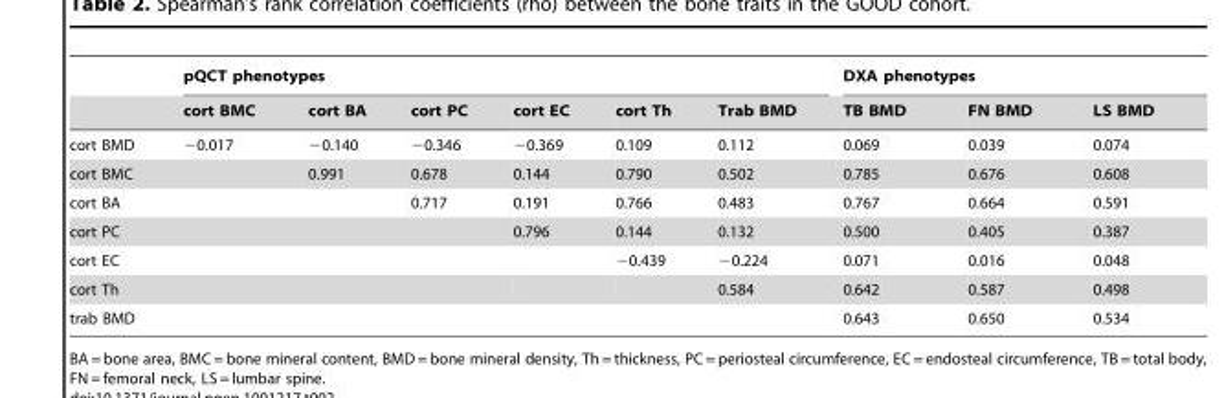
<table><thead><tr><td rowspan="2"></td><td colspan="6">pQCT phenotypes</td><td colspan="3">DXA phenotypes</td></tr><tr><td>cort BMC</td><td>cort BA</td><td>cort PC</td><td>cort EC</td><td>cort Th</td><td>Trab BMD</td><td>TB BMD</td><td>FN BMD</td><td>LS BMD</td></tr></thead><tbody><tr><td>cort BMD</td><td>−0.017</td><td>−0.140</td><td>−0.346</td><td>−0.369</td><td>0.109</td><td>0.112</td><td>0.069</td><td>0.039</td><td>0.074</td></tr><tr><td>cort BMC</td><td></td><td>0.991</td><td>0.678</td><td>0.144</td><td>0.790</td><td>0.502</td><td>0.785</td><td>0.676</td><td>0.608</td></tr><tr><td>cort BA</td><td></td><td></td><td>0.717</td><td>0.191</td><td>0.766</td><td>0.483</td><td>0.767</td><td>0.664</td><td>0.591</td></tr><tr><td>cort PC</td><td></td><td></td><td></td><td>0.796</td><td>0.144</td><td>0.132</td><td>0.500</td><td>0.405</td><td>0.387</td></tr><tr><td>cort EC</td><td></td><td></td><td></td><td></td><td>−0.439</td><td>−0.224</td><td>0.071</td><td>0.016</td><td>0.048</td></tr><tr><td>cort Th</td><td></td><td></td><td></td><td></td><td></td><td>0.584</td><td>0.642</td><td>0.587</td><td>0.498</td></tr><tr><td>trab BMD</td><td></td><td></td><td></td><td></td><td></td><td></td><td>0.643</td><td>0.650</td><td>0.534</td></tr></tbody></table>